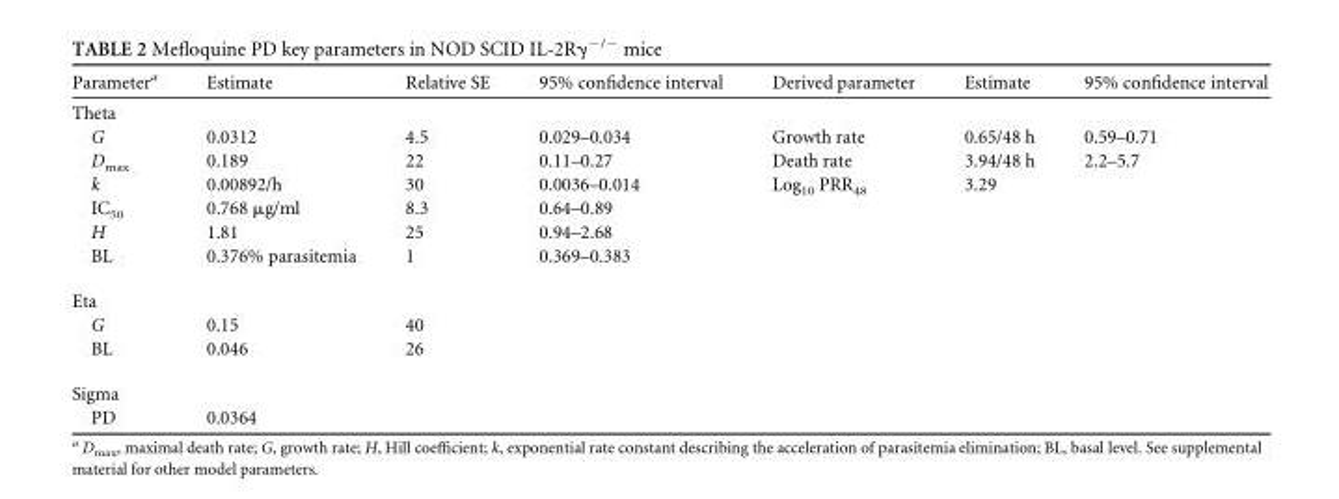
<table><thead><tr><td>Parameter<sup>a</sup></td><td>Estimate</td><td>Relative SE</td><td>95% confidence interval</td><td>Derived parameter</td><td>Estimate</td><td>95% confidence interval</td></tr></thead><tbody><tr><td colspan="7">Theta</td></tr><tr><td>G</td><td>0.0312</td><td>4.5</td><td>0.029–0.034</td><td>Growth rate</td><td>0.65/48 h</td><td>0.59–0.71</td></tr><tr><td>D<sub>max</sub></td><td>0.189</td><td>22</td><td>0.11–0.27</td><td>Death rate</td><td>3.94/48 h</td><td>2.2–5.7</td></tr><tr><td>k</td><td>0.00892/h</td><td>30</td><td>0.0036–0.014</td><td>Log<sub>10</sub> PRR<sub>48</sub></td><td>3.29</td><td></td></tr><tr><td>IC<sub>50</sub></td><td>0.768 μg/ml</td><td>8.3</td><td>0.64–0.89</td><td></td><td></td><td></td></tr><tr><td>H</td><td>1.81</td><td>25</td><td>0.94–2.68</td><td></td><td></td><td></td></tr><tr><td>BL</td><td>0.376% parasitemia</td><td>1</td><td>0.369–0.383</td><td></td><td></td><td></td></tr><tr><td colspan="7">Eta</td></tr><tr><td>G</td><td>0.15</td><td>40</td><td></td><td></td><td></td><td></td></tr><tr><td>BL</td><td>0.046</td><td>26</td><td></td><td></td><td></td><td></td></tr><tr><td colspan="7">Sigma</td></tr><tr><td>PD</td><td>0.0364</td><td></td><td></td><td></td><td></td><td></td></tr></tbody></table>